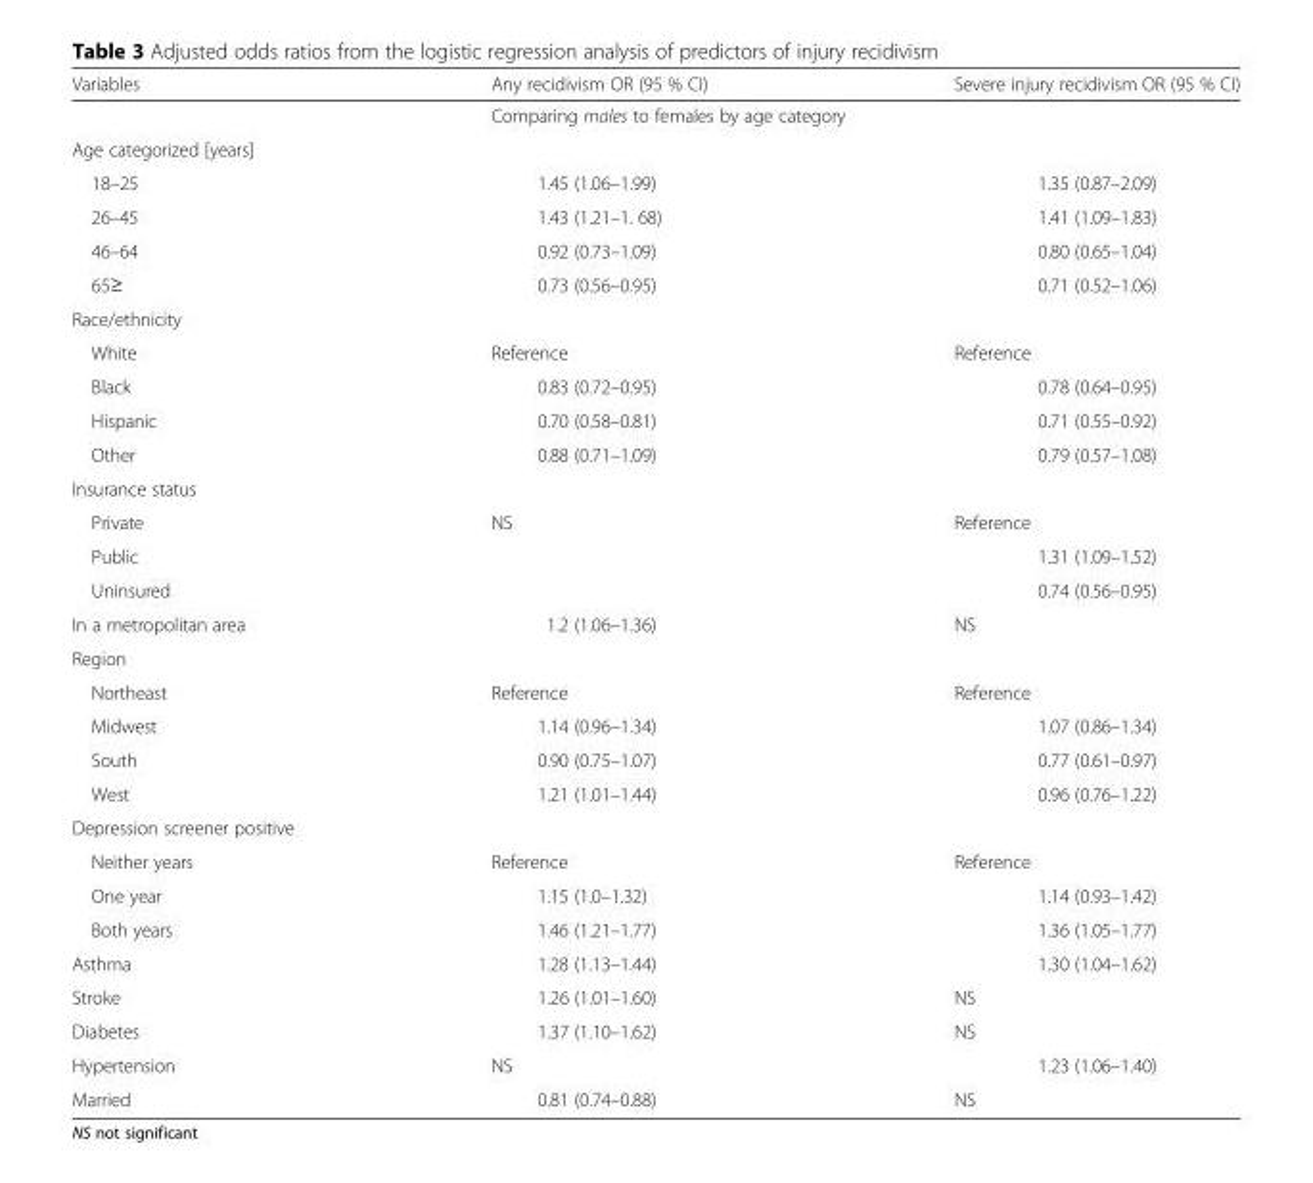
<table><thead><tr><td>Variables</td><td>Any recidivism OR (95 % CI)</td><td>Severe injury recidivism OR (95 % CI)</td></tr></thead><tbody><tr><td></td><td colspan="2">Comparing males to females by age category</td></tr><tr><td colspan="3">Age categorized [years]</td></tr><tr><td>18–25</td><td>1.45 (1.06–1.99)</td><td>1.35 (0.87–2.09)</td></tr><tr><td>26–45</td><td>1.43 (1.21–1. 68)</td><td>1.41 (1.09–1.83)</td></tr><tr><td>46–64</td><td>0.92 (0.73–1.09)</td><td>0.80 (0.65–1.04)</td></tr><tr><td>65≥</td><td>0.73 (0.56–0.95)</td><td>0.71 (0.52–1.06)</td></tr><tr><td colspan="3">Race/ethnicity</td></tr><tr><td>White</td><td>Reference</td><td>Reference</td></tr><tr><td>Black</td><td>0.83 (0.72–0.95)</td><td>0.78 (0.64–0.95)</td></tr><tr><td>Hispanic</td><td>0.70 (0.58–0.81)</td><td>0.71 (0.55–0.92)</td></tr><tr><td>Other</td><td>0.88 (0.71–1.09)</td><td>0.79 (0.57–1.08)</td></tr><tr><td colspan="3">Insurance status</td></tr><tr><td>Private</td><td rowspan="3">NS</td><td>Reference</td></tr><tr><td>Public</td><td>1.31 (1.09–1.52)</td></tr><tr><td>Uninsured</td><td>0.74 (0.56–0.95)</td></tr><tr><td>In a metropolitan area</td><td>1.2 (1.06–1.36)</td><td>NS</td></tr><tr><td colspan="3">Region</td></tr><tr><td>Northeast</td><td>Reference</td><td>Reference</td></tr><tr><td>Midwest</td><td>1.14 (0.96–1.34)</td><td>1.07 (0.86–1.34)</td></tr><tr><td>South</td><td>0.90 (0.75–1.07)</td><td>0.77 (0.61–0.97)</td></tr><tr><td>West</td><td>1.21 (1.01–1.44)</td><td>0.96 (0.76–1.22)</td></tr><tr><td colspan="3">Depression screener positive</td></tr><tr><td>Neither years</td><td>Reference</td><td>Reference</td></tr><tr><td>One year</td><td>1.15 (1.0–1.32)</td><td>1.14 (0.93–1.42)</td></tr><tr><td>Both years</td><td>1.46 (1.21–1.77)</td><td>1.36 (1.05–1.77)</td></tr><tr><td>Asthma</td><td>1.28 (1.13–1.44)</td><td>1.30 (1.04–1.62)</td></tr><tr><td>Stroke</td><td>1.26 (1.01–1.60)</td><td>NS</td></tr><tr><td>Diabetes</td><td>1.37 (1.10–1.62)</td><td>NS</td></tr><tr><td>Hypertension</td><td>NS</td><td>1.23 (1.06–1.40)</td></tr><tr><td>Married</td><td>0.81 (0.74–0.88)</td><td>NS</td></tr></tbody></table>